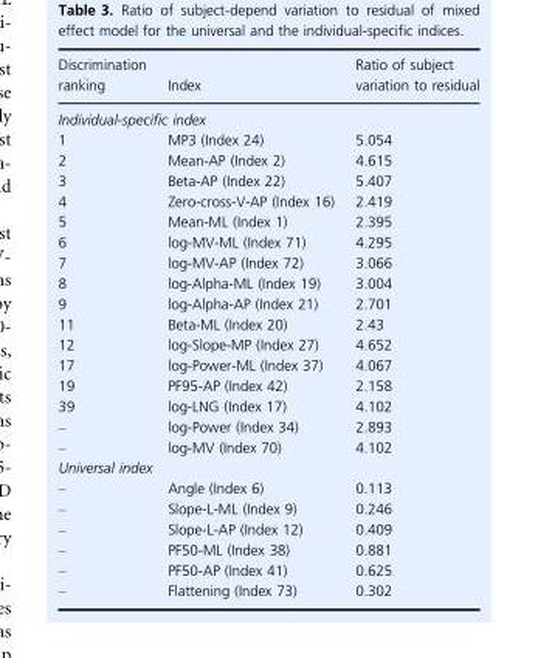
<table><thead><tr><td>Discrimination ranking</td><td>Index</td><td>Ratio of subject variation to residual</td></tr></thead><tbody><tr><td colspan="3">Individual-specific index</td></tr><tr><td>1</td><td>MP3 (Index 24)</td><td>5.054</td></tr><tr><td>2</td><td>Mean-AP (Index 2)</td><td>4.615</td></tr><tr><td>3</td><td>Beta-AP (Index 22)</td><td>5.407</td></tr><tr><td>4</td><td>Zero-cross-V-AP (Index 16)</td><td>2.419</td></tr><tr><td>5</td><td>Mean-ML (Index 1)</td><td>2.395</td></tr><tr><td>6</td><td>log-MV-ML (Index 71)</td><td>4.295</td></tr><tr><td>7</td><td>log-MV-AP (Index 72)</td><td>3.066</td></tr><tr><td>8</td><td>log-Alpha-ML (Index 19)</td><td>3.004</td></tr><tr><td>9</td><td>log-Alpha-AP (Index 21)</td><td>2.701</td></tr><tr><td>11</td><td>Beta-ML (Index 20)</td><td>2.43</td></tr><tr><td>12</td><td>log-Slope-MP (Index 27)</td><td>4.652</td></tr><tr><td>17</td><td>log-Power-ML (Index 37)</td><td>4.067</td></tr><tr><td>19</td><td>PF95-AP (Index 42)</td><td>2.158</td></tr><tr><td>39</td><td>log-LNG (Index 17)</td><td>4.102</td></tr><tr><td>–</td><td>log-Power (Index 34)</td><td>2.893</td></tr><tr><td>–</td><td>log-MV (Index 70)</td><td>4.102</td></tr><tr><td colspan="3">Universal index</td></tr><tr><td>–</td><td>Angle (Index 6)</td><td>0.113</td></tr><tr><td>–</td><td>Slope-L-ML (Index 9)</td><td>0.246</td></tr><tr><td>–</td><td>Slope-L-AP (Index 12)</td><td>0.409</td></tr><tr><td>–</td><td>PF50-ML (Index 38)</td><td>0.881</td></tr><tr><td>–</td><td>PF50-AP (Index 41)</td><td>0.625</td></tr><tr><td>–</td><td>Flattening (Index 73)</td><td>0.302</td></tr></tbody></table>